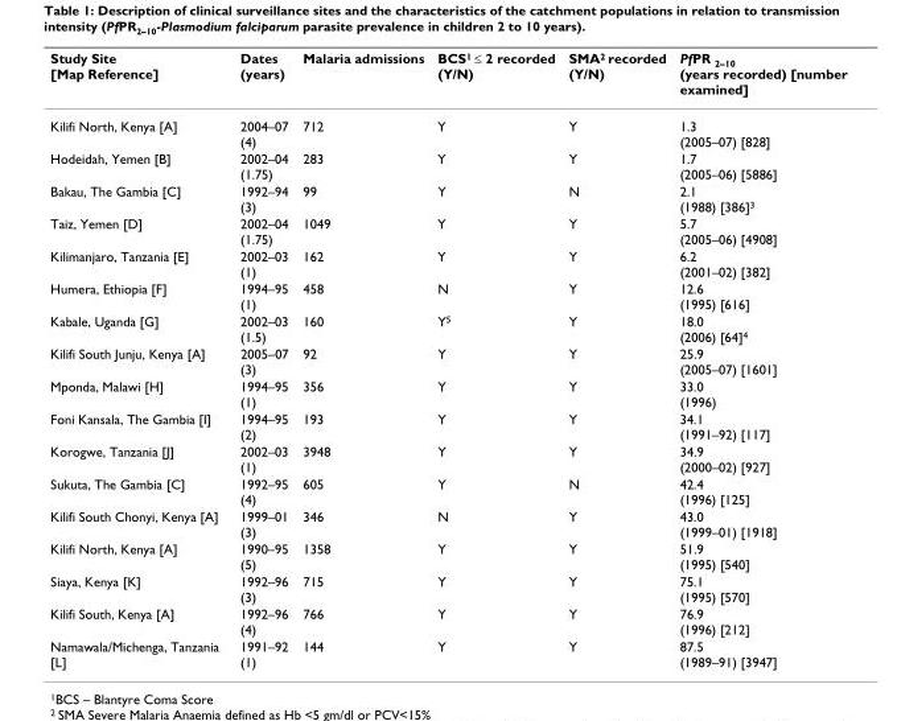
<table><thead><tr><td>Study Site [Map Reference]</td><td>Dates (years)</td><td>Malaria admissions</td><td>BCS<sup>1</sup> ≤ 2 recorded (Y/N)</td><td>SMA<sup>2</sup> recorded (Y/N)</td><td>PfPR <sub>2–10</sub> (years recorded) [number examined]</td></tr></thead><tbody><tr><td>Kilifi North, Kenya [A]</td><td>2004–07 (4)</td><td>712</td><td>Y</td><td>Y</td><td>1.3 (2005–07) [828]</td></tr><tr><td>Hodeidah, Yemen [B]</td><td>2002–04 (1.75)</td><td>283</td><td>Y</td><td>Y</td><td>1.7 (2005–06) [5886]</td></tr><tr><td>Bakau, The Gambia [C]</td><td>1992–94 (3)</td><td>99</td><td>Y</td><td>N</td><td>2.1 (1988) [386]<sup>3</sup></td></tr><tr><td>Taiz, Yemen [D]</td><td>2002–04 (1.75)</td><td>1049</td><td>Y</td><td>Y</td><td>5.7 (2005–06) [4908]</td></tr><tr><td>Kilimanjaro, Tanzania [E]</td><td>2002–03 (1)</td><td>162</td><td>Y</td><td>Y</td><td>6.2 (2001–02) [382]</td></tr><tr><td>Humera, Ethiopia [F]</td><td>1994–95 (1)</td><td>458</td><td>N</td><td>Y</td><td>12.6 (1995) [616]</td></tr><tr><td>Kabale, Uganda [G]</td><td>2002–03 (1.5)</td><td>160</td><td>Y<sup>5</sup></td><td>Y</td><td>18.0 (2006) [64]<sup>4</sup></td></tr><tr><td>Kilifi South Junju, Kenya [A]</td><td>2005–07 (3)</td><td>92</td><td>Y</td><td>Y</td><td>25.9 (2005–07) [1601]</td></tr><tr><td>Mponda, Malawi [H]</td><td>1994–95 (1)</td><td>356</td><td>Y</td><td>Y</td><td>33.0 (1996)</td></tr><tr><td>Foni Kansala, The Gambia [I]</td><td>1994–95 (2)</td><td>193</td><td>Y</td><td>Y</td><td>34.1 (1991–92) [117]</td></tr><tr><td>Korogwe, Tanzania [J]</td><td>2002–03 (1)</td><td>3948</td><td>Y</td><td>Y</td><td>34.9 (2000–02) [927]</td></tr><tr><td>Sukuta, The Gambia [C]</td><td>1992–95 (4)</td><td>605</td><td>Y</td><td>N</td><td>42.4 (1996) [125]</td></tr><tr><td>Kilifi South Chonyi, Kenya [A]</td><td>1999–01 (3)</td><td>346</td><td>N</td><td>Y</td><td>43.0 (1999–01) [1918]</td></tr><tr><td>Kilifi North, Kenya [A]</td><td>1990–95 (5)</td><td>1358</td><td>Y</td><td>Y</td><td>51.9 (1995) [540]</td></tr><tr><td>Siaya, Kenya [K]</td><td>1992–96 (3)</td><td>715</td><td>Y</td><td>Y</td><td>75.1 (1995) [570]</td></tr><tr><td>Kilifi South, Kenya [A]</td><td>1992–96 (4)</td><td>766</td><td>Y</td><td>Y</td><td>76.9 (1996) [212]</td></tr><tr><td>Namawala/Michenga, Tanzania [L]</td><td>1991–92 (1)</td><td>144</td><td>Y</td><td>Y</td><td>87.5 (1989–91) [3947]</td></tr></tbody></table>